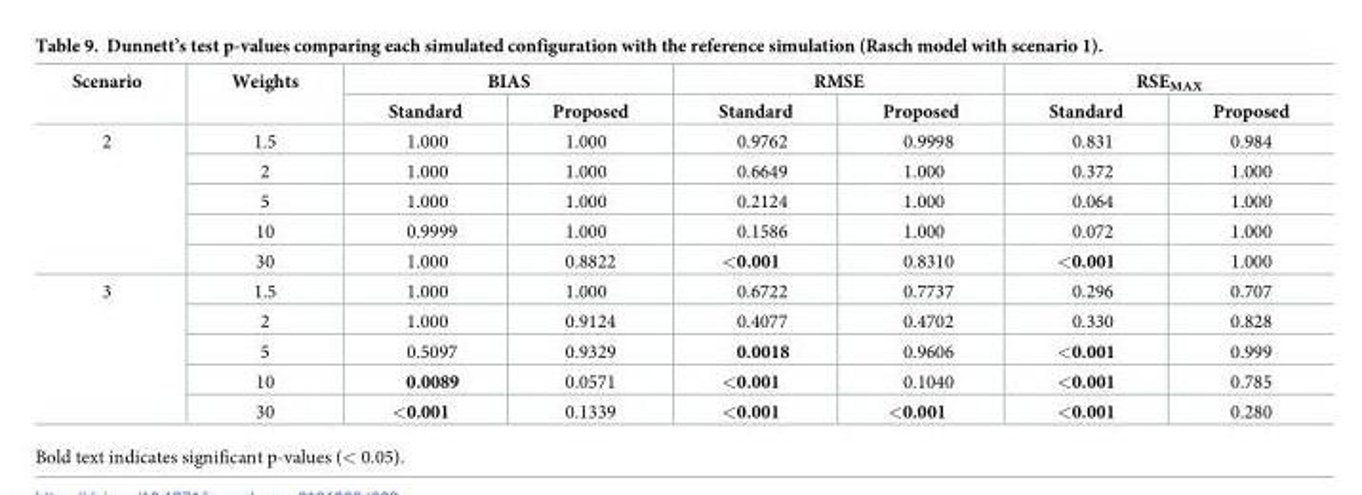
<table><thead><tr><td rowspan="2">Scenario</td><td rowspan="2">Weights</td><td colspan="2">BIAS</td><td colspan="2">RMSE</td><td colspan="2">RSE<sub>MAX</sub></td></tr><tr><td>Standard</td><td>Proposed</td><td>Standard</td><td>Proposed</td><td>Standard</td><td>Proposed</td></tr></thead><tbody><tr><td rowspan="5">2</td><td>1.5</td><td>1.000</td><td>1.000</td><td>0.9762</td><td>0.9998</td><td>0.831</td><td>0.984</td></tr><tr><td>2</td><td>1.000</td><td>1.000</td><td>0.6649</td><td>1.000</td><td>0.372</td><td>1.000</td></tr><tr><td>5</td><td>1.000</td><td>1.000</td><td>0.2124</td><td>1.000</td><td>0.064</td><td>1.000</td></tr><tr><td>10</td><td>0.9999</td><td>1.000</td><td>0.1586</td><td>1.000</td><td>0.072</td><td>1.000</td></tr><tr><td>30</td><td>1.000</td><td>0.8822</td><td>&lt;0.001</td><td>0.8310</td><td>&lt;0.001</td><td>1.000</td></tr><tr><td rowspan="5">3</td><td>1.5</td><td>1.000</td><td>1.000</td><td>0.6722</td><td>0.7737</td><td>0.296</td><td>0.707</td></tr><tr><td>2</td><td>1.000</td><td>0.9124</td><td>0.4077</td><td>0.4702</td><td>0.330</td><td>0.828</td></tr><tr><td>5</td><td>0.5097</td><td>0.9329</td><td>0.0018</td><td>0.9606</td><td>&lt;0.001</td><td>0.999</td></tr><tr><td>10</td><td>0.0089</td><td>0.0571</td><td>&lt;0.001</td><td>0.1040</td><td>&lt;0.001</td><td>0.785</td></tr><tr><td>30</td><td>&lt;0.001</td><td>0.1339</td><td>&lt;0.001</td><td>&lt;0.001</td><td>&lt;0.001</td><td>0.280</td></tr></tbody></table>